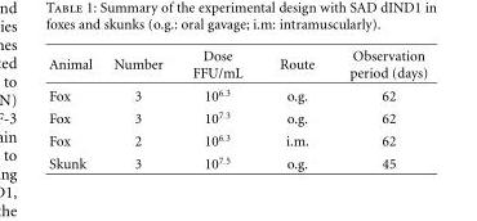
<table><thead><tr><td>Animal</td><td>Number</td><td>Dose FFU/mL</td><td>Route</td><td>Observation period (days)</td></tr></thead><tbody><tr><td>Fox</td><td>3</td><td>10<sup>6.3</sup></td><td>o.g.</td><td>62</td></tr><tr><td>Fox</td><td>3</td><td>10<sup>7.3</sup></td><td>o.g.</td><td>62</td></tr><tr><td>Fox</td><td>2</td><td>10<sup>6.3</sup></td><td>i.m.</td><td>62</td></tr><tr><td>Skunk</td><td>3</td><td>10<sup>7.5</sup></td><td>o.g.</td><td>45</td></tr></tbody></table>